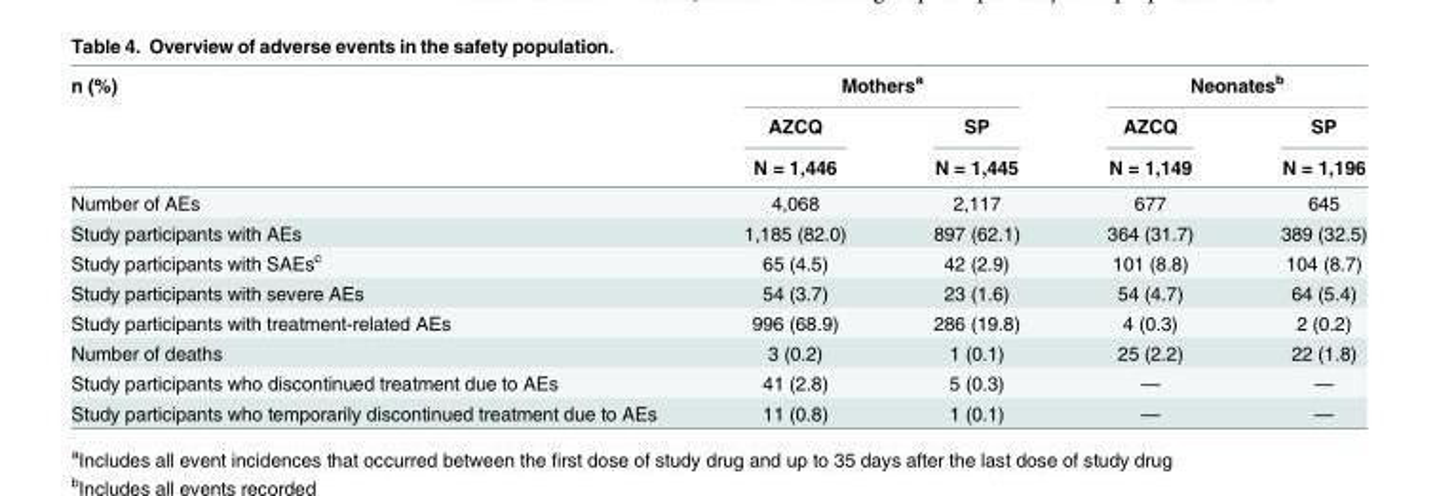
<table><thead><tr><td rowspan="3">n (%)</td><td colspan="2">Mothers<sup>a</sup></td><td colspan="2">Neonates<sup>b</sup></td></tr><tr><td rowspan="2">AZCQ N = 1,446</td><td rowspan="2">SP N = 1,445</td><td rowspan="2">AZCQ N = 1,149</td><td rowspan="2">SP N = 1,196</td></tr><tr></tr></thead><tbody><tr><td>Number of AEs</td><td>4,068</td><td>2,117</td><td>677</td><td>645</td></tr><tr><td>Study participants with AEs</td><td>1,185 (82.0)</td><td>897 (62.1)</td><td>364 (31.7)</td><td>389 (32.5)</td></tr><tr><td>Study participants with SAEs<sup>c</sup></td><td>65 (4.5)</td><td>42 (2.9)</td><td>101 (8.8)</td><td>104 (8.7)</td></tr><tr><td>Study participants with severe AEs</td><td>54 (3.7)</td><td>23 (1.6)</td><td>54 (4.7)</td><td>64 (5.4)</td></tr><tr><td>Study participants with treatment-related AEs</td><td>996 (68.9)</td><td>286 (19.8)</td><td>4 (0.3)</td><td>2 (0.2)</td></tr><tr><td>Number of deaths</td><td>3 (0.2)</td><td>1 (0.1)</td><td>25 (2.2)</td><td>22 (1.8)</td></tr><tr><td>Study participants who discontinued treatment due to AEs</td><td>41 (2.8)</td><td>5 (0.3)</td><td>—</td><td>—</td></tr><tr><td>Study participants who temporarily discontinued treatment due to AEs</td><td>11 (0.8)</td><td>1 (0.1)</td><td>—</td><td>—</td></tr></tbody></table>